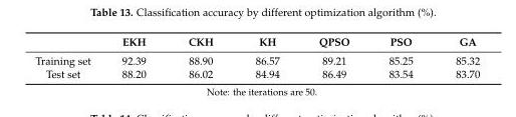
<table><thead><tr><td></td><td>EKH</td><td>CKH</td><td>KH</td><td>QPSO</td><td>PSO</td><td>GA</td></tr></thead><tbody><tr><td>Training set</td><td>92.39</td><td>88.90</td><td>86.57</td><td>89.21</td><td>85.25</td><td>85.32</td></tr><tr><td>Test set</td><td>88.20</td><td>86.02</td><td>84.94</td><td>86.49</td><td>83.54</td><td>83.70</td></tr></tbody></table>